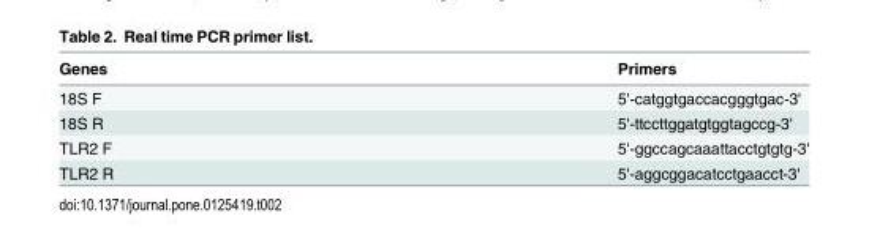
<table><thead><tr><td>Genes</td><td>Primers</td></tr></thead><tbody><tr><td>18S F</td><td>5&#x27;-catggtgaccacgggtgac-3&#x27;</td></tr><tr><td>18S R</td><td>5&#x27;-ttccttggatgtggtagccg-3&#x27;</td></tr><tr><td>TLR2 F</td><td>5&#x27;-ggccagcaaattacctgtgtg-3&#x27;</td></tr><tr><td>TLR2 R</td><td>5&#x27;-aggcggacatcctgaacct-3&#x27;</td></tr></tbody></table>